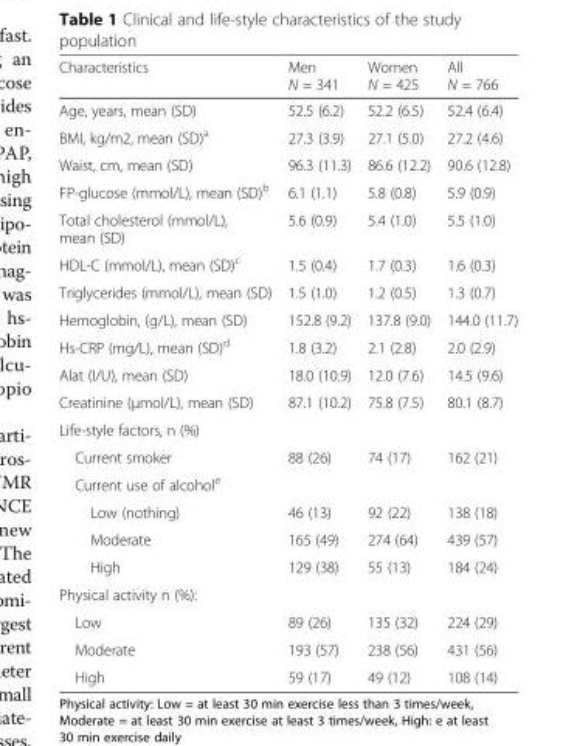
<table><thead><tr><td>Characteristics</td><td>Men N = 341</td><td>Women N = 425</td><td>All N = 766</td></tr></thead><tbody><tr><td>Age, years, mean (SD)</td><td>52.5 (6.2)</td><td>52.2 (6.5)</td><td>52.4 (6.4)</td></tr><tr><td>BMI, kg/m2, mean (SD)<sup>a</sup></td><td>27.3 (3.9)</td><td>27.1 (5.0)</td><td>27.2 (4.6)</td></tr><tr><td>Waist, cm, mean (SD)</td><td>96.3 (11.3)</td><td>86.6 (12.2)</td><td>90.6 (12.8)</td></tr><tr><td>FP-glucose (mmol/L), mean (SD)<sup>b</sup></td><td>6.1 (1.1)</td><td>5.8 (0.8)</td><td>5.9 (0.9)</td></tr><tr><td>Total cholesterol (mmol/L), mean (SD)</td><td>5.6 (0.9)</td><td>5.4 (1.0)</td><td>5.5 (1.0)</td></tr><tr><td>HDL-C (mmol/L), mean (SD)<sup>c</sup></td><td>1.5 (0.4)</td><td>1.7 (0.3)</td><td>1.6 (0.3)</td></tr><tr><td>Triglycerides (mmol/L), mean (SD)</td><td>1.5 (1.0)</td><td>1.2 (0.5)</td><td>1.3 (0.7)</td></tr><tr><td>Hemoglobin, (g/L), mean (SD)</td><td>152.8 (9.2)</td><td>137.8 (9.0)</td><td>144.0 (11.7)</td></tr><tr><td>Hs-CRP (mg/L), mean (SD)<sup>d</sup></td><td>1.8 (3.2)</td><td>2.1 (2.8)</td><td>2.0 (2.9)</td></tr><tr><td>Alat (I/U), mean (SD)</td><td>18.0 (10.9)</td><td>12.0 (7.6)</td><td>14.5 (9.6)</td></tr><tr><td>Creatinine (μmol/L), mean (SD)</td><td>87.1 (10.2)</td><td>75.8 (7.5)</td><td>80.1 (8.7)</td></tr><tr><td colspan="4">Life-style factors, n (%)</td></tr><tr><td>Current smoker</td><td>88 (26)</td><td>74 (17)</td><td>162 (21)</td></tr><tr><td colspan="4">Current use of alcohol<sup>e</sup></td></tr><tr><td>Low (nothing)</td><td>46 (13)</td><td>92 (22)</td><td>138 (18)</td></tr><tr><td>Moderate</td><td>165 (49)</td><td>274 (64)</td><td>439 (57)</td></tr><tr><td>High</td><td>129 (38)</td><td>55 (13)</td><td>184 (24)</td></tr><tr><td colspan="4">Physical activity n (%):</td></tr><tr><td>Low</td><td>89 (26)</td><td>135 (32)</td><td>224 (29)</td></tr><tr><td>Moderate</td><td>193 (57)</td><td>238 (56)</td><td>431 (56)</td></tr><tr><td>High</td><td>59 (17)</td><td>49 (12)</td><td>108 (14)</td></tr></tbody></table>